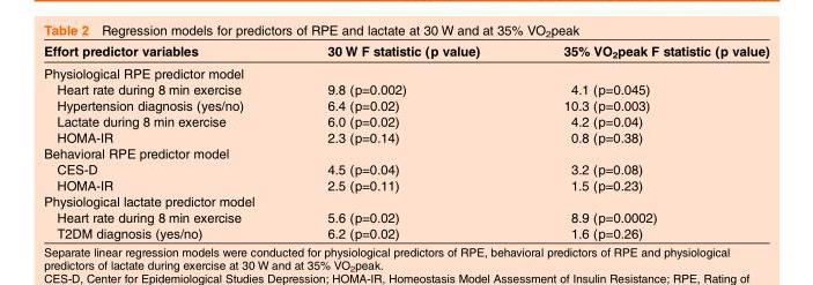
<table><thead><tr><td>Effort predictor variables</td><td>30 W F statistic (p value)</td><td>35% VO<sub>2</sub>peak F statistic (p value)</td></tr></thead><tbody><tr><td colspan="3">Physiological RPE predictor model</td></tr><tr><td>Heart rate during 8 min exercise</td><td>9.8 (p=0.002)</td><td>4.1 (p=0.045)</td></tr><tr><td>Hypertension diagnosis (yes/no)</td><td>6.4 (p=0.02)</td><td>10.3 (p=0.003)</td></tr><tr><td>Lactate during 8 min exercise</td><td>6.0 (p=0.02)</td><td>4.2 (p=0.04)</td></tr><tr><td>HOMA-IR</td><td>2.3 (p=0.14)</td><td>0.8 (p=0.38)</td></tr><tr><td colspan="3">Behavioral RPE predictor model</td></tr><tr><td>CES-D</td><td>4.5 (p=0.04)</td><td>3.2 (p=0.08)</td></tr><tr><td>HOMA-IR</td><td>2.5 (p=0.11)</td><td>1.5 (p=0.23)</td></tr><tr><td colspan="3">Physiological lactate predictor model</td></tr><tr><td>Heart rate during 8 min exercise</td><td>5.6 (p=0.02)</td><td>8.9 (p=0.0002)</td></tr><tr><td>T2DM diagnosis (yes/no)</td><td>6.2 (p=0.02)</td><td>1.6 (p=0.26)</td></tr></tbody></table>